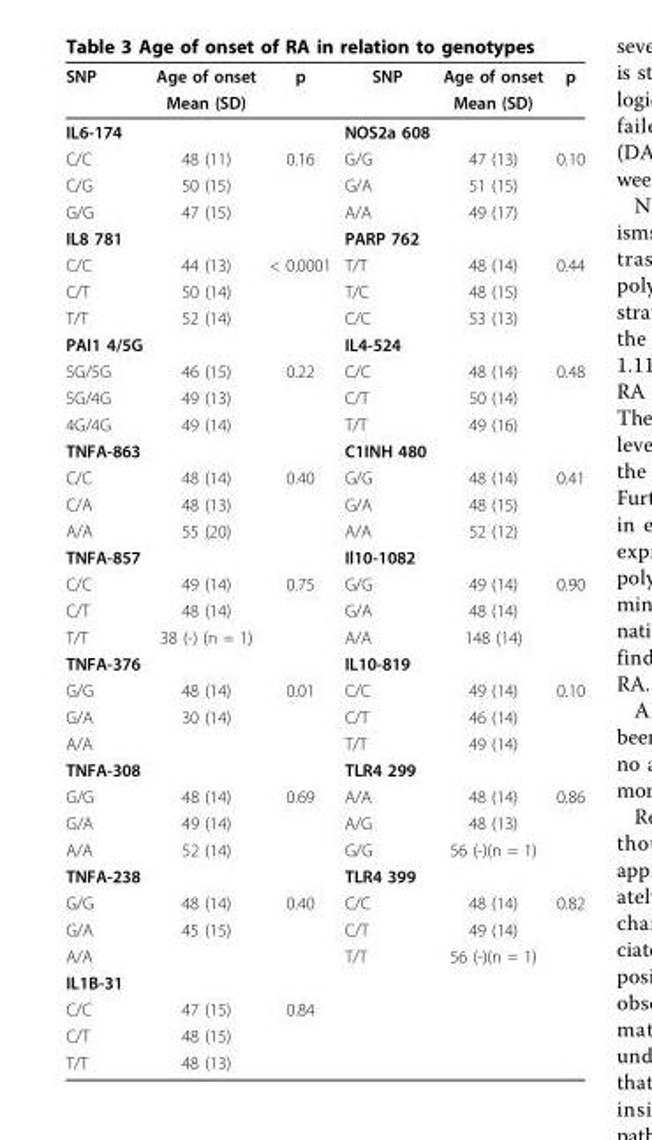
<table><thead><tr><td rowspan="2">SNP</td><td rowspan="2">Age of onset Mean (SD)</td><td rowspan="2">p</td><td rowspan="2">SNP</td><td rowspan="2">Age of onset Mean (SD)</td><td rowspan="2">p</td></tr><tr></tr></thead><tbody><tr><td>IL6-174</td><td></td><td></td><td>NOS2a 608</td><td></td><td></td></tr><tr><td>C/C</td><td>48 (11)</td><td>0.16</td><td>G/G</td><td>47 (13)</td><td>0.10</td></tr><tr><td>C/G</td><td>50 (15)</td><td></td><td>G/A</td><td>51 (15)</td><td></td></tr><tr><td>G/G</td><td>47 (15)</td><td></td><td>A/A</td><td>49 (17)</td><td></td></tr><tr><td>IL8 781</td><td></td><td></td><td>PARP 762</td><td></td><td></td></tr><tr><td>C/C</td><td>44 (13)</td><td>&lt; 0.0001</td><td>T/T</td><td>48 (14)</td><td>0.44</td></tr><tr><td>C/T</td><td>50 (14)</td><td></td><td>T/C</td><td>48 (15)</td><td></td></tr><tr><td>T/T</td><td>52 (14)</td><td></td><td>C/C</td><td>53 (13)</td><td></td></tr><tr><td>PAI1 4/5G</td><td></td><td></td><td>IL4-524</td><td></td><td></td></tr><tr><td>5G/5G</td><td>46 (15)</td><td>0.22</td><td>C/C</td><td>48 (14)</td><td>0.48</td></tr><tr><td>5G/4G</td><td>49 (13)</td><td></td><td>C/T</td><td>50 (14)</td><td></td></tr><tr><td>4G/4G</td><td>49 (14)</td><td></td><td>T/T</td><td>49 (16)</td><td></td></tr><tr><td>TNFA-863</td><td></td><td></td><td>C1INH 480</td><td></td><td></td></tr><tr><td>C/C</td><td>48 (14)</td><td>0.40</td><td>G/G</td><td>48 (14)</td><td>0.41</td></tr><tr><td>C/A</td><td>48 (13)</td><td></td><td>G/A</td><td>48 (15)</td><td></td></tr><tr><td>A/A</td><td>55 (20)</td><td></td><td>A/A</td><td>52 (12)</td><td></td></tr><tr><td>TNFA-857</td><td></td><td></td><td>Il10-1082</td><td></td><td></td></tr><tr><td>C/C</td><td>49 (14)</td><td>0.75</td><td>G/G</td><td>49 (14)</td><td>0.90</td></tr><tr><td>C/T</td><td>48 (14)</td><td></td><td>G/A</td><td>48 (14)</td><td></td></tr><tr><td>T/T</td><td>38 (-) (n = 1)</td><td></td><td>A/A</td><td>148 (14)</td><td></td></tr><tr><td>TNFA-376</td><td></td><td></td><td>IL10-819</td><td></td><td></td></tr><tr><td>G/G</td><td>48 (14)</td><td>0.01</td><td>C/C</td><td>49 (14)</td><td>0.10</td></tr><tr><td>G/A</td><td>30 (14)</td><td></td><td>C/T</td><td>46 (14)</td><td></td></tr><tr><td>A/A</td><td></td><td></td><td>T/T</td><td>49 (14)</td><td></td></tr><tr><td>TNFA-308</td><td></td><td></td><td>TLR4 299</td><td></td><td></td></tr><tr><td>G/G</td><td>48 (14)</td><td>0.69</td><td>A/A</td><td>48 (14)</td><td>0.86</td></tr><tr><td>G/A</td><td>49 (14)</td><td></td><td>A/G</td><td>48 (13)</td><td></td></tr><tr><td>A/A</td><td>52 (14)</td><td></td><td>G/G</td><td>56 (-)(n = 1)</td><td></td></tr><tr><td>TNFA-238</td><td></td><td></td><td>TLR4 399</td><td></td><td></td></tr><tr><td>G/G</td><td>48 (14)</td><td>0.40</td><td>C/C</td><td>48 (14)</td><td>0.82</td></tr><tr><td>G/A</td><td>45 (15)</td><td></td><td>C/T</td><td>49 (14)</td><td></td></tr><tr><td>A/A</td><td></td><td></td><td>T/T</td><td>56 (-)(n = 1)</td><td></td></tr><tr><td colspan="6">IL1B-31</td></tr><tr><td>C/C</td><td>47 (15)</td><td>0.84</td><td></td><td></td><td></td></tr><tr><td>C/T</td><td>48 (15)</td><td></td><td></td><td></td><td></td></tr><tr><td>T/T</td><td>48 (13)</td><td></td><td></td><td></td><td></td></tr></tbody></table>